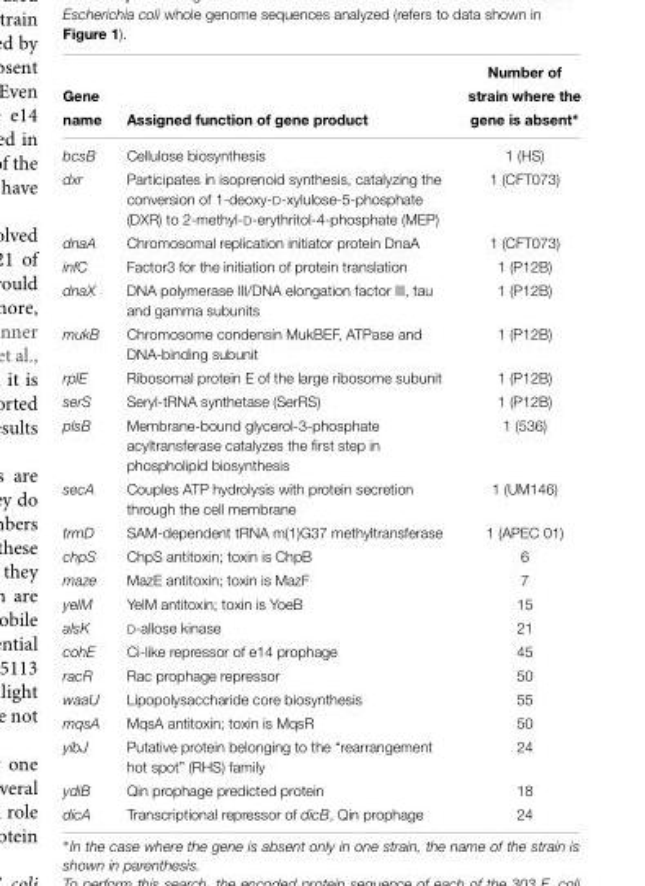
<table><thead><tr><td rowspan="3">Gene name</td><td rowspan="3">Assigned function of gene product</td><td rowspan="3">Number of strain where the gene is absent∗</td></tr><tr></tr><tr></tr></thead><tbody><tr><td>bcsB</td><td>Cellulose biosynthesis</td><td>1 (HS)</td></tr><tr><td>dxr</td><td>Participates in isoprenoid synthesis, catalyzing the conversion of 1-deoxy-D-xylulose-5-phosphate (DXR) to 2-methyl-D-erythritol-4-phosphate (MEP)</td><td>1 (CFT073)</td></tr><tr><td>dnaA</td><td>Chromosomal replication initiator protein DnaA</td><td>1 (CFT073)</td></tr><tr><td>infC</td><td>Factor3 for the initiation of protein translation</td><td>1 (P12B)</td></tr><tr><td>dnaX</td><td>DNA polymerase III/DNA elongation factor III, tau and gamma subunits</td><td>1 (P12B)</td></tr><tr><td>mukB</td><td>Chromosome condensin MukBEF, ATPase and DNA-binding subunit</td><td>1 (P12B)</td></tr><tr><td>rplE</td><td>Ribosomal protein E of the large ribosome subunit</td><td>1 (P12B)</td></tr><tr><td>serS</td><td>Seryl-tRNA synthetase (SerRS)</td><td>1 (P12B)</td></tr><tr><td>plsB</td><td>Membrane-bound glycerol-3-phosphate acyltransferase catalyzes the first step in phospholipid biosynthesis</td><td>1 (536)</td></tr><tr><td>secA</td><td>Couples ATP hydrolysis with protein secretion through the cell membrane</td><td>1 (UM146)</td></tr><tr><td>trmD</td><td>SAM-dependent tRNA m(1)G37 methyltransferase</td><td>1 (APEC 01)</td></tr><tr><td>chpS</td><td>ChpS antitoxin; toxin is ChpB</td><td>6</td></tr><tr><td>maze</td><td>MazE antitoxin; toxin is MazF</td><td>7</td></tr><tr><td>yelM</td><td>YelM antitoxin; toxin is YoeB</td><td>15</td></tr><tr><td>alsK</td><td>D-allose kinase</td><td>21</td></tr><tr><td>cohE</td><td>Ci-like repressor of e14 prophage</td><td>45</td></tr><tr><td>racR</td><td>Rac prophage repressor</td><td>50</td></tr><tr><td>waaU</td><td>Lipopolysaccharide core biosynthesis</td><td>55</td></tr><tr><td>mqsA</td><td>MqsA antitoxin; toxin is MqsR</td><td>50</td></tr><tr><td>yibJ</td><td>Putative protein belonging to the “rearrangement hot spot” (RHS) family</td><td>24</td></tr><tr><td>ydiB</td><td>Qin prophage predicted protein</td><td>18</td></tr><tr><td>dicA</td><td>Transcriptional repressor of dicB, Qin prophage</td><td>24</td></tr></tbody></table>